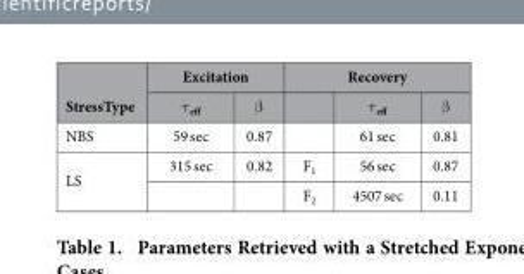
<table><thead><tr><td rowspan="2">StressType</td><td colspan="2">Excitation</td><td colspan="3">Recovery</td></tr><tr><td>τ <sub>eff</sub></td><td>β</td><td></td><td>τ <sub>eff</sub></td><td>β</td></tr></thead><tbody><tr><td>NBS</td><td>59 sec</td><td>0.87</td><td></td><td>61 sec</td><td>0.81</td></tr><tr><td rowspan="2">LS</td><td>315 sec</td><td>0.82</td><td>F<sub>1</sub></td><td>56 sec</td><td>0.87</td></tr><tr><td></td><td></td><td>F<sub>2</sub></td><td>4507 sec</td><td>0.11</td></tr></tbody></table>